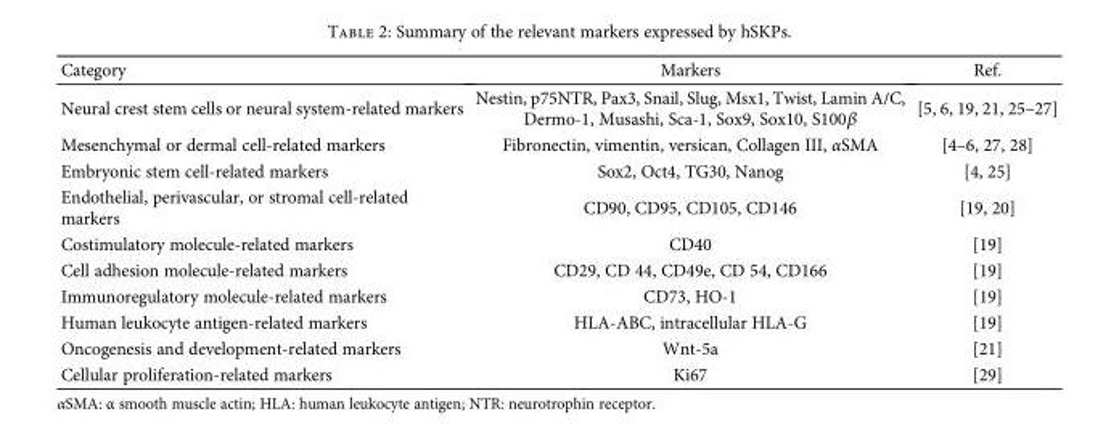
<table><thead><tr><td>Category</td><td>Markers</td><td>Ref.</td></tr></thead><tbody><tr><td>Neural crest stem cells or neural system-related markers</td><td>Nestin, p75NTR, Pax3, Snail, Slug, Msx1, Twist, Lamin A/C, Dermo-1, Musashi, Sca-1, Sox9, Sox10, S100β</td><td>[5, 6, 19, 21, 25–27]</td></tr><tr><td>Mesenchymal or dermal cell-related markers</td><td>Fibronectin, vimentin, versican, Collagen III, αSMA</td><td>[4–6, 27, 28]</td></tr><tr><td>Embryonic stem cell-related markers</td><td>Sox2, Oct4, TG30, Nanog</td><td>[4, 25]</td></tr><tr><td>Endothelial, perivascular, or stromal cell-related markers</td><td>CD90, CD95, CD105, CD146</td><td>[19, 20]</td></tr><tr><td>Costimulatory molecule-related markers</td><td>CD40</td><td>[19]</td></tr><tr><td>Cell adhesion molecule-related markers</td><td>CD29, CD 44, CD49e, CD 54, CD166</td><td>[19]</td></tr><tr><td>Immunoregulatory molecule-related markers</td><td>CD73, HO-1</td><td>[19]</td></tr><tr><td>Human leukocyte antigen-related markers</td><td>HLA-ABC, intracellular HLA-G</td><td>[19]</td></tr><tr><td>Oncogenesis and development-related markers</td><td>Wnt-5a</td><td>[21]</td></tr><tr><td>Cellular proliferation-related markers</td><td>Ki67</td><td>[29]</td></tr></tbody></table>